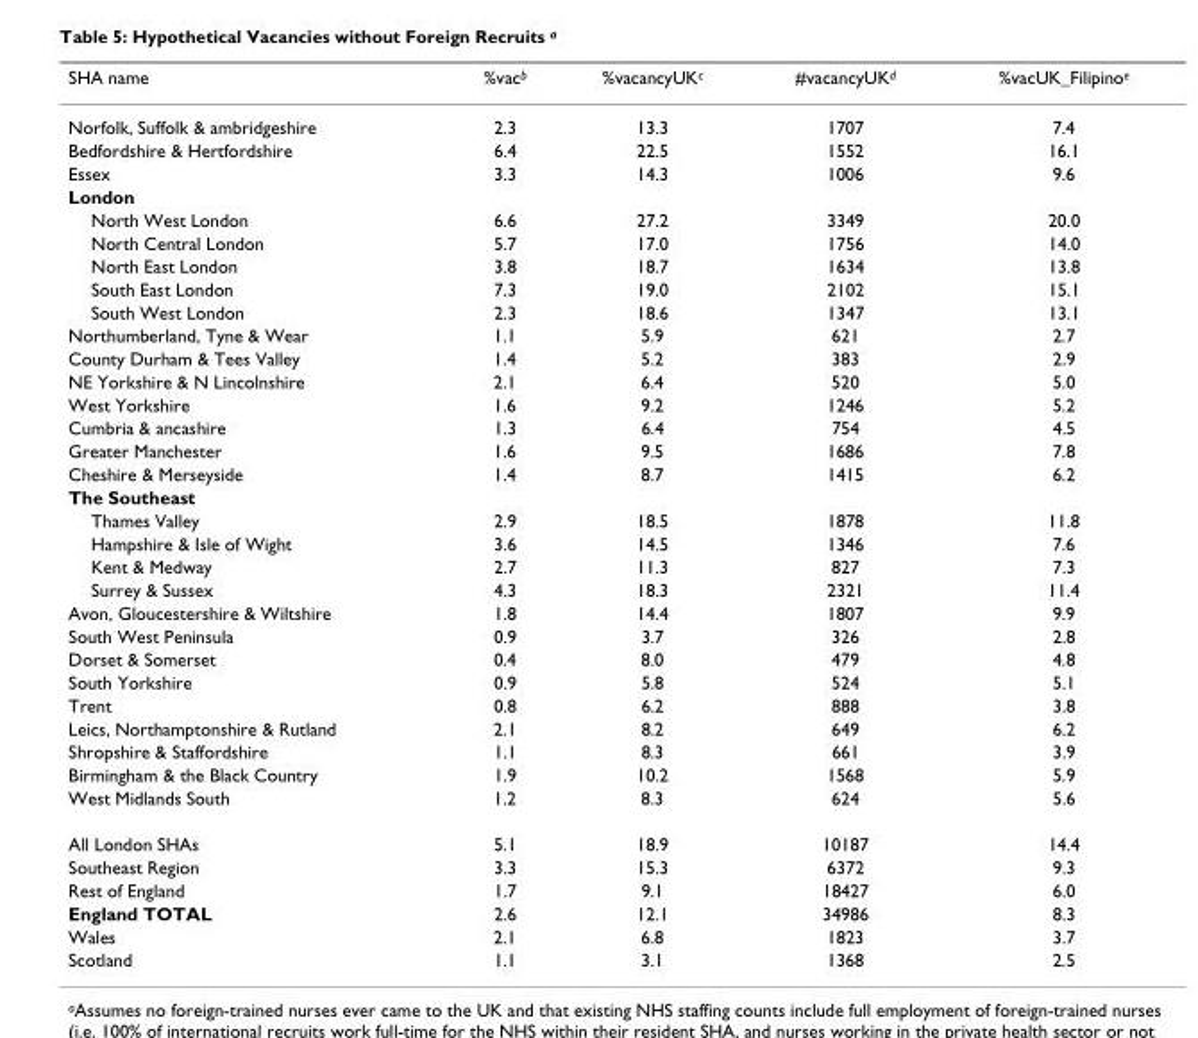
<table><thead><tr><td>SHA name</td><td>%vac<sup>b</sup></td><td>%vacancyUK<sup>c</sup></td><td>#vacancyUK<sup>d</sup></td><td>%vacUK_Filipino<sup>e</sup></td></tr></thead><tbody><tr><td>Norfolk, Suffolk &amp; ambridgeshire</td><td>2.3</td><td>13.3</td><td>1707</td><td>7.4</td></tr><tr><td>Bedfordshire &amp; Hertfordshire</td><td>6.4</td><td>22.5</td><td>1552</td><td>16.1</td></tr><tr><td>Essex</td><td>3.3</td><td>14.3</td><td>1006</td><td>9.6</td></tr><tr><td colspan="5">London</td></tr><tr><td>North West London</td><td>6.6</td><td>27.2</td><td>3349</td><td>20.0</td></tr><tr><td>North Central London</td><td>5.7</td><td>17.0</td><td>1756</td><td>14.0</td></tr><tr><td>North East London</td><td>3.8</td><td>18.7</td><td>1634</td><td>13.8</td></tr><tr><td>South East London</td><td>7.3</td><td>19.0</td><td>2102</td><td>15.1</td></tr><tr><td>South West London</td><td>2.3</td><td>18.6</td><td>1347</td><td>13.1</td></tr><tr><td>Northumberland, Tyne &amp; Wear</td><td>1.1</td><td>5.9</td><td>621</td><td>2.7</td></tr><tr><td>County Durham &amp; Tees Valley</td><td>1.4</td><td>5.2</td><td>383</td><td>2.9</td></tr><tr><td>NE Yorkshire &amp; N Lincolnshire</td><td>2.1</td><td>6.4</td><td>520</td><td>5.0</td></tr><tr><td>West Yorkshire</td><td>1.6</td><td>9.2</td><td>1246</td><td>5.2</td></tr><tr><td>Cumbria &amp; ancashire</td><td>1.3</td><td>6.4</td><td>754</td><td>4.5</td></tr><tr><td>Greater Manchester</td><td>1.6</td><td>9.5</td><td>1686</td><td>7.8</td></tr><tr><td>Cheshire &amp; Merseyside</td><td>1.4</td><td>8.7</td><td>1415</td><td>6.2</td></tr><tr><td colspan="5">The Southeast</td></tr><tr><td>Thames Valley</td><td>2.9</td><td>18.5</td><td>1878</td><td>11.8</td></tr><tr><td>Hampshire &amp; Isle of Wight</td><td>3.6</td><td>14.5</td><td>1346</td><td>7.6</td></tr><tr><td>Kent &amp; Medway</td><td>2.7</td><td>11.3</td><td>827</td><td>7.3</td></tr><tr><td>Surrey &amp; Sussex</td><td>4.3</td><td>18.3</td><td>2321</td><td>11.4</td></tr><tr><td>Avon, Gloucestershire &amp; Wiltshire</td><td>1.8</td><td>14.4</td><td>1807</td><td>9.9</td></tr><tr><td>South West Peninsula</td><td>0.9</td><td>3.7</td><td>326</td><td>2.8</td></tr><tr><td>Dorset &amp; Somerset</td><td>0.4</td><td>8.0</td><td>479</td><td>4.8</td></tr><tr><td>South Yorkshire</td><td>0.9</td><td>5.8</td><td>524</td><td>5.1</td></tr><tr><td>Trent</td><td>0.8</td><td>6.2</td><td>888</td><td>3.8</td></tr><tr><td>Leics, Northamptonshire &amp; Rutland</td><td>2.1</td><td>8.2</td><td>649</td><td>6.2</td></tr><tr><td>Shropshire &amp; Staffordshire</td><td>1.1</td><td>8.3</td><td>661</td><td>3.9</td></tr><tr><td>Birmingham &amp; the Black Country</td><td>1.9</td><td>10.2</td><td>1568</td><td>5.9</td></tr><tr><td>West Midlands South</td><td>1.2</td><td>8.3</td><td>624</td><td>5.6</td></tr><tr><td>All London SHAs</td><td>5.1</td><td>18.9</td><td>10187</td><td>14.4</td></tr><tr><td>Southeast Region</td><td>3.3</td><td>15.3</td><td>6372</td><td>9.3</td></tr><tr><td>Rest of England</td><td>1.7</td><td>9.1</td><td>18427</td><td>6.0</td></tr><tr><td>England TOTAL</td><td>2.6</td><td>12.1</td><td>34986</td><td>8.3</td></tr><tr><td>Wales</td><td>2.1</td><td>6.8</td><td>1823</td><td>3.7</td></tr><tr><td>Scotland</td><td>1.1</td><td>3.1</td><td>1368</td><td>2.5</td></tr></tbody></table>